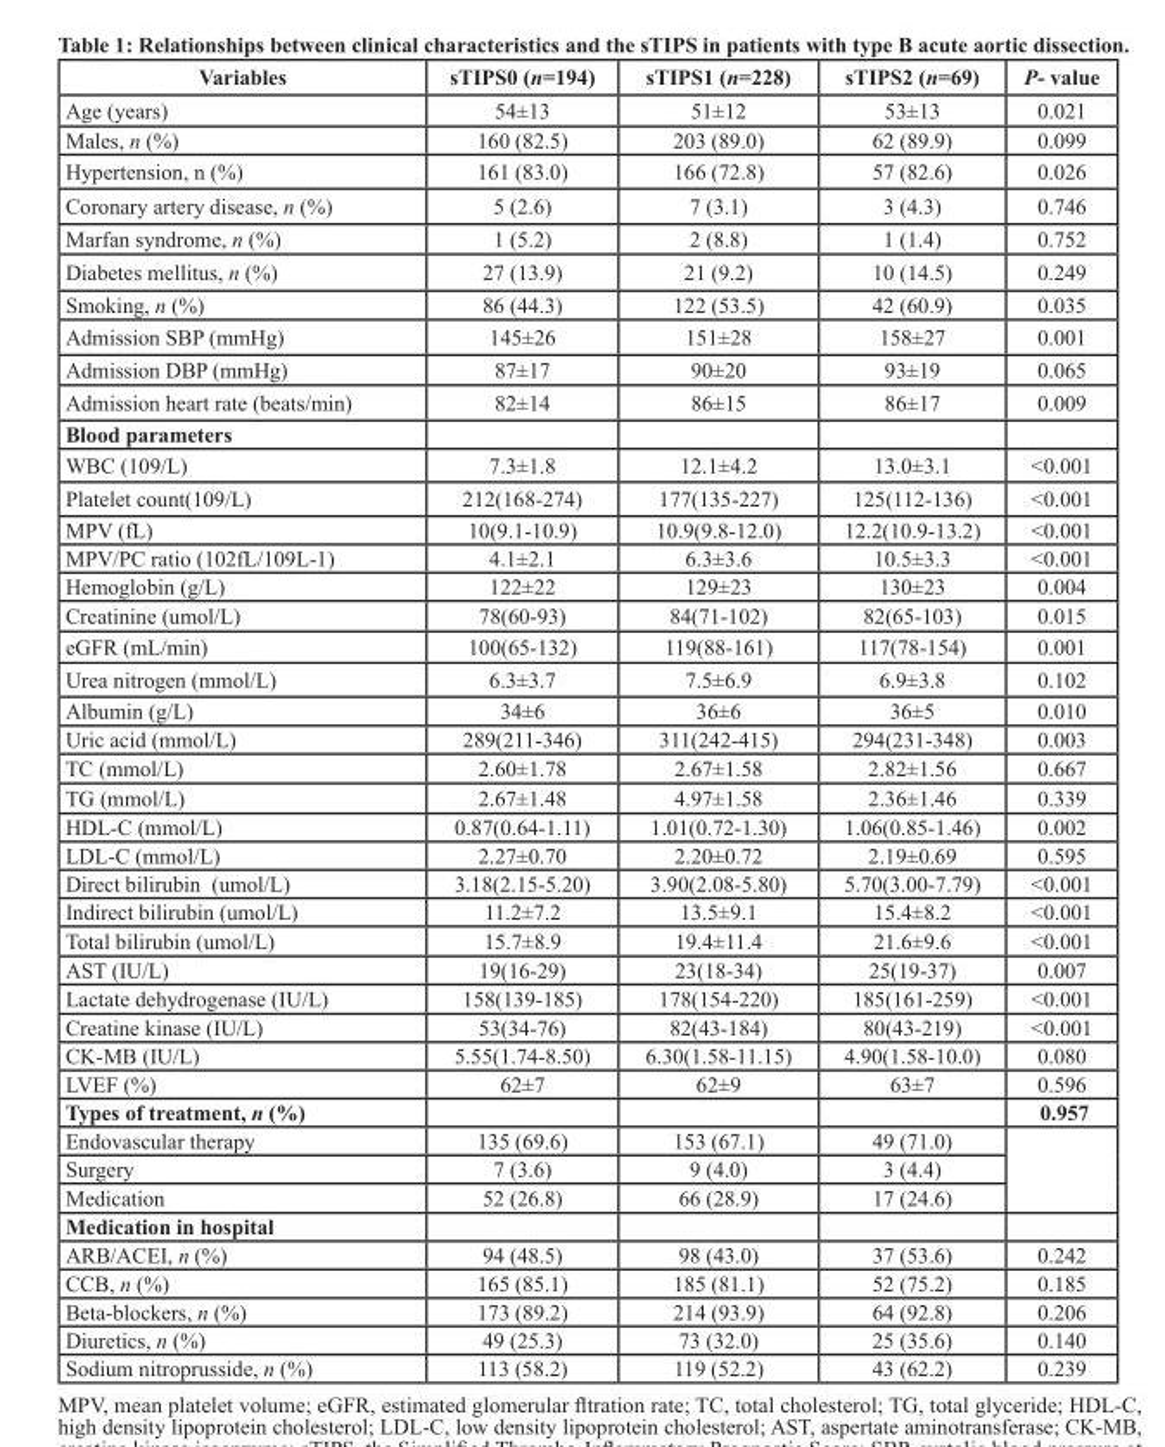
<table><thead><tr><td>Variables</td><td>sTIPS0 (n=194)</td><td>sTIPS1 (n=228)</td><td>sTIPS2 (n=69)</td><td>P- value</td></tr></thead><tbody><tr><td>Age (years)</td><td>54±13</td><td>51±12</td><td>53±13</td><td>0.021</td></tr><tr><td>Males, n (%)</td><td>160 (82.5)</td><td>203 (89.0)</td><td>62 (89.9)</td><td>0.099</td></tr><tr><td>Hypertension, n (%)</td><td>161 (83.0)</td><td>166 (72.8)</td><td>57 (82.6)</td><td>0.026</td></tr><tr><td>Coronary artery disease, n (%)</td><td>5 (2.6)</td><td>7 (3.1)</td><td>3 (4.3)</td><td>0.746</td></tr><tr><td>Marfan syndrome, n (%)</td><td>1 (5.2)</td><td>2 (8.8)</td><td>1 (1.4)</td><td>0.752</td></tr><tr><td>Diabetes mellitus, n (%)</td><td>27 (13.9)</td><td>21 (9.2)</td><td>10 (14.5)</td><td>0.249</td></tr><tr><td>Smoking, n (%)</td><td>86 (44.3)</td><td>122 (53.5)</td><td>42 (60.9)</td><td>0.035</td></tr><tr><td>Admission SBP (mmHg)</td><td>145±26</td><td>151±28</td><td>158±27</td><td>0.001</td></tr><tr><td>Admission DBP (mmHg)</td><td>87±17</td><td>90±20</td><td>93±19</td><td>0.065</td></tr><tr><td>Admission heart rate (beats/min)</td><td>82±14</td><td>86±15</td><td>86±17</td><td>0.009</td></tr><tr><td colspan="5">Blood parameters</td></tr><tr><td>WBC (109/L)</td><td>7.3±1.8</td><td>12.1±4.2</td><td>13.0±3.1</td><td>&lt;0.001</td></tr><tr><td>Platelet count(109/L)</td><td>212(168-274)</td><td>177(135-227)</td><td>125(112-136)</td><td>&lt;0.001</td></tr><tr><td>MPV (fL)</td><td>10(9.1-10.9)</td><td>10.9(9.8-12.0)</td><td>12.2(10.9-13.2)</td><td>&lt;0.001</td></tr><tr><td>MPV/PC ratio (102fL/109L-1)</td><td>4.1±2.1</td><td>6.3±3.6</td><td>10.5±3.3</td><td>&lt;0.001</td></tr><tr><td>Hemoglobin (g/L)</td><td>122±22</td><td>129±23</td><td>130±23</td><td>0.004</td></tr><tr><td>Creatinine (umol/L)</td><td>78(60-93)</td><td>84(71-102)</td><td>82(65-103)</td><td>0.015</td></tr><tr><td>eGFR (mL/min)</td><td>100(65-132)</td><td>119(88-161)</td><td>117(78-154)</td><td>0.001</td></tr><tr><td>Urea nitrogen (mmol/L)</td><td>6.3±3.7</td><td>7.5±6.9</td><td>6.9±3.8</td><td>0.102</td></tr><tr><td>Albumin (g/L)</td><td>34±6</td><td>36±6</td><td>36±5</td><td>0.010</td></tr><tr><td>Uric acid (mmol/L)</td><td>289(211-346)</td><td>311(242-415)</td><td>294(231-348)</td><td>0.003</td></tr><tr><td>TC (mmol/L)</td><td>2.60±1.78</td><td>2.67±1.58</td><td>2.82±1.56</td><td>0.667</td></tr><tr><td>TG (mmol/L)</td><td>2.67±1.48</td><td>4.97±1.58</td><td>2.36±1.46</td><td>0.339</td></tr><tr><td>HDL-C (mmol/L)</td><td>0.87(0.64-1.11)</td><td>1.01(0.72-1.30)</td><td>1.06(0.85-1.46)</td><td>0.002</td></tr><tr><td>LDL-C (mmol/L)</td><td>2.27±0.70</td><td>2.20±0.72</td><td>2.19±0.69</td><td>0.595</td></tr><tr><td>Direct bilirubin (umol/L)</td><td>3.18(2.15-5.20)</td><td>3.90(2.08-5.80)</td><td>5.70(3.00-7.79)</td><td>&lt;0.001</td></tr><tr><td>Indirect bilirubin (umol/L)</td><td>11.2±7.2</td><td>13.5±9.1</td><td>15.4±8.2</td><td>&lt;0.001</td></tr><tr><td>Total bilirubin (umol/L)</td><td>15.7±8.9</td><td>19.4±11.4</td><td>21.6±9.6</td><td>&lt;0.001</td></tr><tr><td>AST (IU/L)</td><td>19(16-29)</td><td>23(18-34)</td><td>25(19-37)</td><td>0.007</td></tr><tr><td>Lactate dehydrogenase (IU/L)</td><td>158(139-185)</td><td>178(154-220)</td><td>185(161-259)</td><td>&lt;0.001</td></tr><tr><td>Creatine kinase (IU/L)</td><td>53(34-76)</td><td>82(43-184)</td><td>80(43-219)</td><td>&lt;0.001</td></tr><tr><td>CK-MB (IU/L)</td><td>5.55(1.74-8.50)</td><td>6.30(1.58-11.15)</td><td>4.90(1.58-10.0)</td><td>0.080</td></tr><tr><td>LVEF (%)</td><td>62±7</td><td>62±9</td><td>63±7</td><td>0.596</td></tr><tr><td>Types of treatment, n (%)</td><td></td><td></td><td></td><td>0.957</td></tr><tr><td>Endovascular therapy</td><td>135 (69.6)</td><td>153 (67.1)</td><td>49 (71.0)</td><td rowspan="3"></td></tr><tr><td>Surgery</td><td>7 (3.6)</td><td>9 (4.0)</td><td>3 (4.4)</td></tr><tr><td>Medication</td><td>52 (26.8)</td><td>66 (28.9)</td><td>17 (24.6)</td></tr><tr><td colspan="5">Medication in hospital</td></tr><tr><td>ARB/ACEI, n (%)</td><td>94 (48.5)</td><td>98 (43.0)</td><td>37 (53.6)</td><td>0.242</td></tr><tr><td>CCB, n (%)</td><td>165 (85.1)</td><td>185 (81.1)</td><td>52 (75.2)</td><td>0.185</td></tr><tr><td>Beta-blockers, n (%)</td><td>173 (89.2)</td><td>214 (93.9)</td><td>64 (92.8)</td><td>0.206</td></tr><tr><td>Diuretics, n (%)</td><td>49 (25.3)</td><td>73 (32.0)</td><td>25 (35.6)</td><td>0.140</td></tr><tr><td>Sodium nitroprusside, n (%)</td><td>113 (58.2)</td><td>119 (52.2)</td><td>43 (62.2)</td><td>0.239</td></tr></tbody></table>